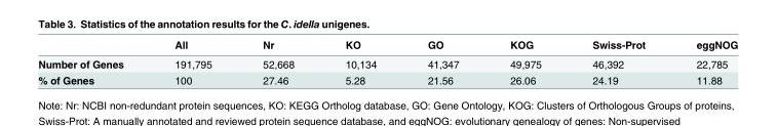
<table><thead><tr><td></td><td>All</td><td>Nr</td><td>KO</td><td>GO</td><td>KOG</td><td>Swiss-Prot</td><td>eggNOG</td></tr></thead><tbody><tr><td>Number of Genes</td><td>191,795</td><td>52,668</td><td>10,134</td><td>41,347</td><td>49,975</td><td>46,392</td><td>22,785</td></tr><tr><td>% of Genes</td><td>100</td><td>27.46</td><td>5.28</td><td>21.56</td><td>26.06</td><td>24.19</td><td>11.88</td></tr></tbody></table>